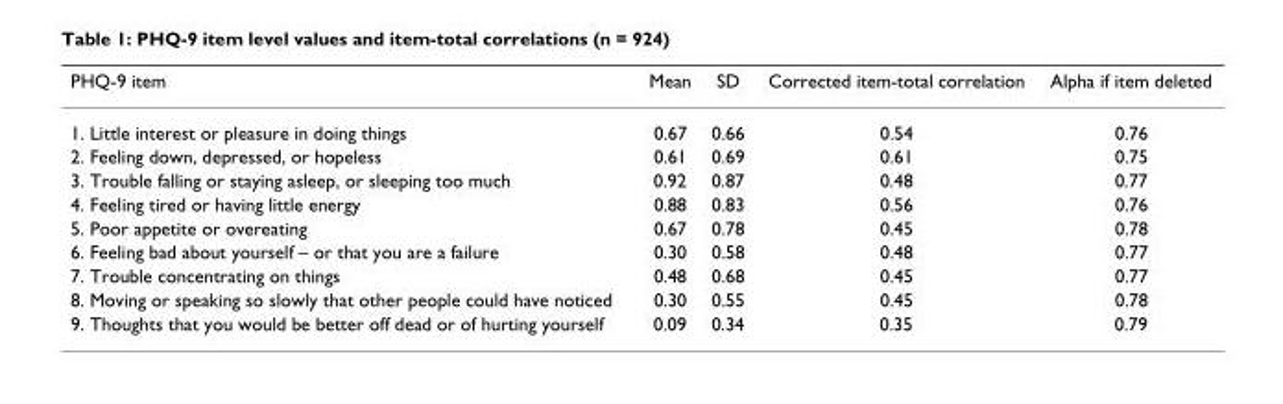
<table><thead><tr><td>PHQ-9 item</td><td>Mean</td><td>SD</td><td>Corrected item-total correlation</td><td>Alpha if item deleted</td></tr></thead><tbody><tr><td>1. Little interest or pleasure in doing things</td><td>0.67</td><td>0.66</td><td>0.54</td><td>0.76</td></tr><tr><td>2. Feeling down, depressed, or hopeless</td><td>0.61</td><td>0.69</td><td>0.61</td><td>0.75</td></tr><tr><td>3. Trouble falling or staying asleep, or sleeping too much</td><td>0.92</td><td>0.87</td><td>0.48</td><td>0.77</td></tr><tr><td>4. Feeling tired or having little energy</td><td>0.88</td><td>0.83</td><td>0.56</td><td>0.76</td></tr><tr><td>5. Poor appetite or overeating</td><td>0.67</td><td>0.78</td><td>0.45</td><td>0.78</td></tr><tr><td>6. Feeling bad about yourself – or that you are a failure</td><td>0.30</td><td>0.58</td><td>0.48</td><td>0.77</td></tr><tr><td>7. Trouble concentrating on things</td><td>0.48</td><td>0.68</td><td>0.45</td><td>0.77</td></tr><tr><td>8. Moving or speaking so slowly that other people could have noticed</td><td>0.30</td><td>0.55</td><td>0.45</td><td>0.78</td></tr><tr><td>9. Thoughts that you would be better off dead or of hurting yourself</td><td>0.09</td><td>0.34</td><td>0.35</td><td>0.79</td></tr></tbody></table>